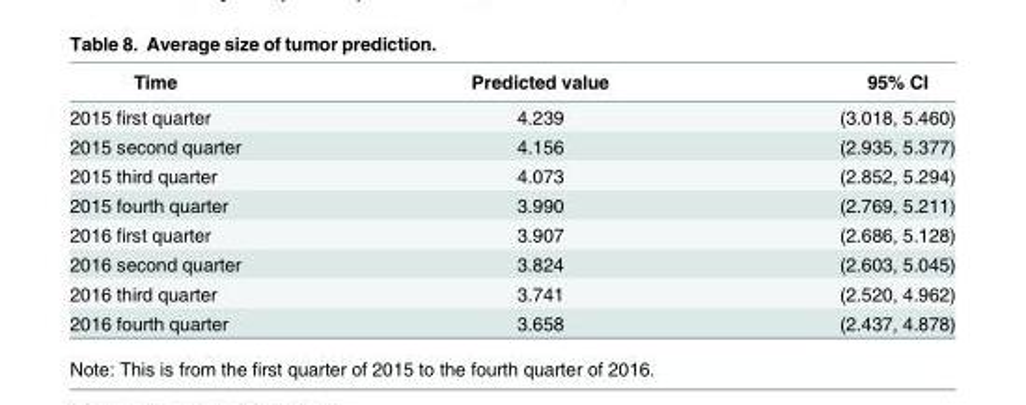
<table><thead><tr><td>Time</td><td>Predicted value</td><td>95% CI</td></tr></thead><tbody><tr><td>2015 first quarter</td><td>4.239</td><td>(3.018, 5.460)</td></tr><tr><td>2015 second quarter</td><td>4.156</td><td>(2.935, 5.377)</td></tr><tr><td>2015 third quarter</td><td>4.073</td><td>(2.852, 5.294)</td></tr><tr><td>2015 fourth quarter</td><td>3.990</td><td>(2.769, 5.211)</td></tr><tr><td>2016 first quarter</td><td>3.907</td><td>(2.686, 5.128)</td></tr><tr><td>2016 second quarter</td><td>3.824</td><td>(2.603, 5.045)</td></tr><tr><td>2016 third quarter</td><td>3.741</td><td>(2.520, 4.962)</td></tr><tr><td>2016 fourth quarter</td><td>3.658</td><td>(2.437, 4.878)</td></tr></tbody></table>